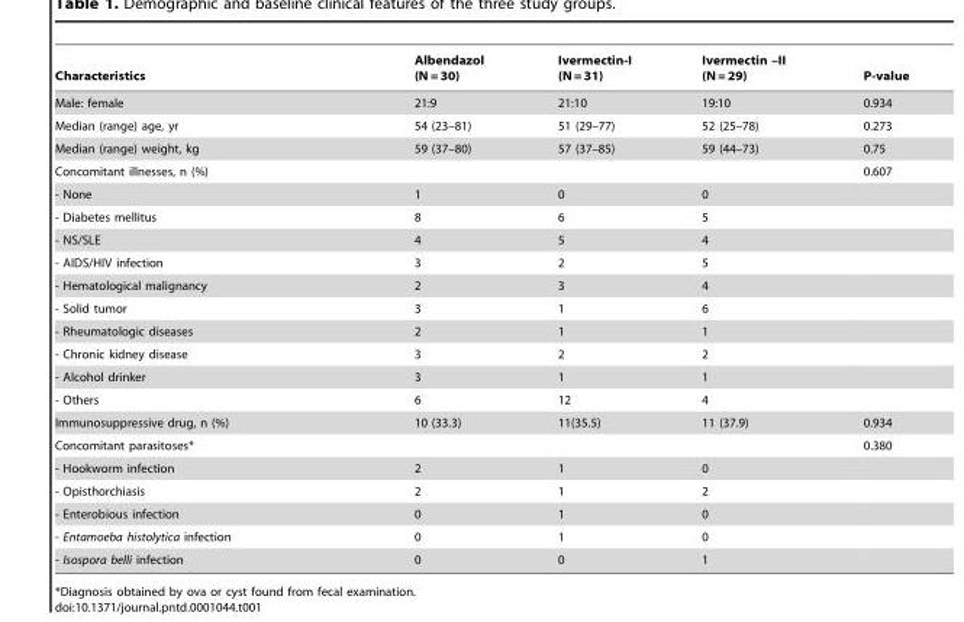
<table><thead><tr><td>Characteristics</td><td>Albendazol (N = 30)</td><td>Ivermectin-I (N = 31)</td><td>Ivermectin –II (N = 29)</td><td>P-value</td></tr></thead><tbody><tr><td>Male: female</td><td>21:9</td><td>21:10</td><td>19:10</td><td>0.934</td></tr><tr><td>Median (range) age, yr</td><td>54 (23–81)</td><td>51 (29–77)</td><td>52 (25–78)</td><td>0.273</td></tr><tr><td>Median (range) weight, kg</td><td>59 (37–80)</td><td>57 (37–85)</td><td>59 (44–73)</td><td>0.75</td></tr><tr><td>Concomitant illnesses, n (%)</td><td></td><td></td><td></td><td>0.607</td></tr><tr><td>- None</td><td>1</td><td>0</td><td>0</td><td></td></tr><tr><td>- Diabetes mellitus</td><td>8</td><td>6</td><td>5</td><td></td></tr><tr><td>- NS/SLE</td><td>4</td><td>5</td><td>4</td><td></td></tr><tr><td>- AIDS/HIV infection</td><td>3</td><td>2</td><td>5</td><td></td></tr><tr><td>- Hematological malignancy</td><td>2</td><td>3</td><td>4</td><td></td></tr><tr><td>- Solid tumor</td><td>3</td><td>1</td><td>6</td><td></td></tr><tr><td>- Rheumatologic diseases</td><td>2</td><td>1</td><td>1</td><td></td></tr><tr><td>- Chronic kidney disease</td><td>3</td><td>2</td><td>2</td><td></td></tr><tr><td>- Alcohol drinker</td><td>3</td><td>1</td><td>1</td><td></td></tr><tr><td>- Others</td><td>6</td><td>12</td><td>4</td><td></td></tr><tr><td>Immunosuppressive drug, n (%)</td><td>10 (33.3)</td><td>11(35.5)</td><td>11 (37.9)</td><td>0.934</td></tr><tr><td>Concomitant parasitoses*</td><td></td><td></td><td></td><td>0.380</td></tr><tr><td>- Hookworm infection</td><td>2</td><td>1</td><td>0</td><td></td></tr><tr><td>- Opisthorchiasis</td><td>2</td><td>1</td><td>2</td><td></td></tr><tr><td>- Enterobious infection</td><td>0</td><td>1</td><td>0</td><td></td></tr><tr><td>- Entamoeba histolytica infection</td><td>0</td><td>1</td><td>0</td><td></td></tr><tr><td>- Isospora belli infection</td><td>0</td><td>0</td><td>1</td><td></td></tr></tbody></table>